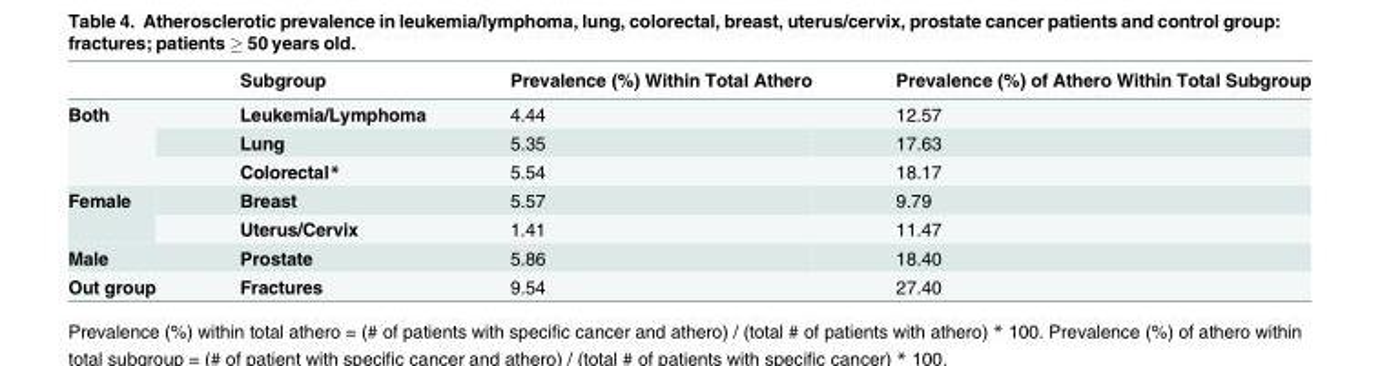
<table><thead><tr><td></td><td>Subgroup</td><td>Prevalence (%) Within Total Athero</td><td>Prevalence (%) of Athero Within Total Subgroup</td></tr></thead><tbody><tr><td rowspan="3">Both</td><td>Leukemia/Lymphoma</td><td>4.44</td><td>12.57</td></tr><tr><td>Lung</td><td>5.35</td><td>17.63</td></tr><tr><td>Colorectal*</td><td>5.54</td><td>18.17</td></tr><tr><td rowspan="2">Female</td><td>Breast</td><td>5.57</td><td>9.79</td></tr><tr><td>Uterus/Cervix</td><td>1.41</td><td>11.47</td></tr><tr><td>Male</td><td>Prostate</td><td>5.86</td><td>18.40</td></tr><tr><td>Out group</td><td>Fractures</td><td>9.54</td><td>27.40</td></tr></tbody></table>